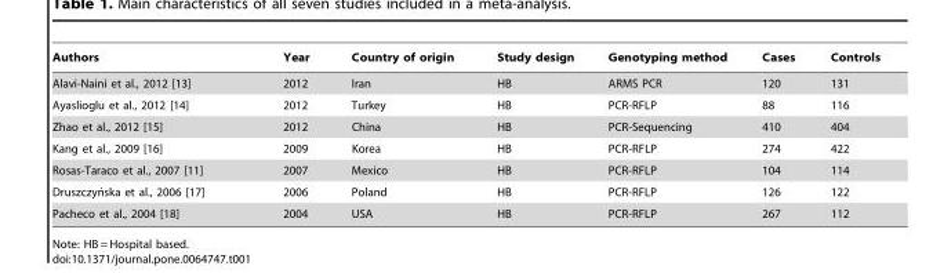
<table><thead><tr><td>Authors</td><td>Year</td><td>Country of origin</td><td>Study design</td><td>Genotyping method</td><td>Cases</td><td>Controls</td></tr></thead><tbody><tr><td>Alavi-Naini et al., 2012 [13]</td><td>2012</td><td>Iran</td><td>HB</td><td>ARMS PCR</td><td>120</td><td>131</td></tr><tr><td>Ayaslioglu et al., 2012 [14]</td><td>2012</td><td>Turkey</td><td>HB</td><td>PCR-RFLP</td><td>88</td><td>116</td></tr><tr><td>Zhao et al., 2012 [15]</td><td>2012</td><td>China</td><td>HB</td><td>PCR-Sequencing</td><td>410</td><td>404</td></tr><tr><td>Kang et al., 2009 [16]</td><td>2009</td><td>Korea</td><td>HB</td><td>PCR-RFLP</td><td>274</td><td>422</td></tr><tr><td>Rosas-Taraco et al., 2007 [11]</td><td>2007</td><td>Mexico</td><td>HB</td><td>PCR-RFLP</td><td>104</td><td>114</td></tr><tr><td>Druszczyn´ska et al., 2006 [17]</td><td>2006</td><td>Poland</td><td>HB</td><td>PCR-RFLP</td><td>126</td><td>122</td></tr><tr><td>Pacheco et al., 2004 [18]</td><td>2004</td><td>USA</td><td>HB</td><td>PCR-RFLP</td><td>267</td><td>112</td></tr></tbody></table>